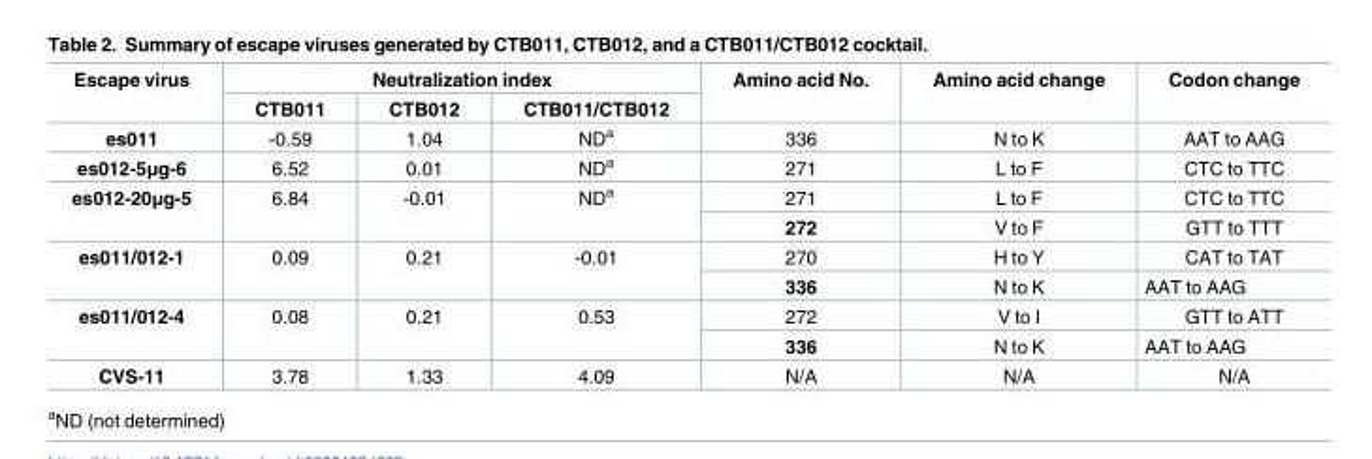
<table><thead><tr><td rowspan="2">Escape virus</td><td colspan="3">Neutralization index</td><td rowspan="2">Amino acid No.</td><td rowspan="2">Amino acid change</td><td rowspan="2">Codon change</td></tr><tr><td>CTB011</td><td>CTB012</td><td>CTB011/CTB012</td></tr></thead><tbody><tr><td>es011</td><td>-0.59</td><td>1.04</td><td>ND<sup>a</sup></td><td>336</td><td>N to K</td><td>AAT to AAG</td></tr><tr><td>es012-5μg-6</td><td>6.52</td><td>0.01</td><td>ND<sup>a</sup></td><td>271</td><td>L to F</td><td>CTC to TTC</td></tr><tr><td rowspan="2">es012-20μg-5</td><td rowspan="2">6.84</td><td rowspan="2">-0.01</td><td rowspan="2">ND<sup>a</sup></td><td>271</td><td>L to F</td><td>CTC to TTC</td></tr><tr><td>272</td><td>V to F</td><td>GTT to TTT</td></tr><tr><td rowspan="2">es011/012-1</td><td rowspan="2">0.09</td><td rowspan="2">0.21</td><td rowspan="2">-0.01</td><td>270</td><td>H to Y</td><td>CAT to TAT</td></tr><tr><td>336</td><td>N to K</td><td>AAT to AAG</td></tr><tr><td rowspan="2">es011/012-4</td><td rowspan="2">0.08</td><td rowspan="2">0.21</td><td rowspan="2">0.53</td><td>272</td><td>V to I</td><td>GTT to ATT</td></tr><tr><td>336</td><td>N to K</td><td>AAT to AAG</td></tr><tr><td>CVS-11</td><td>3.78</td><td>1.33</td><td>4.09</td><td>N/A</td><td>N/A</td><td>N/A</td></tr></tbody></table>